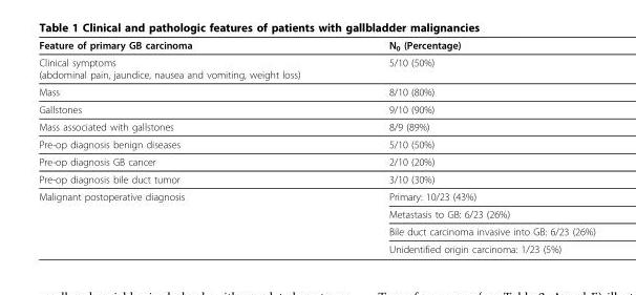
<table><thead><tr><td>Feature of primary GB carcinoma</td><td>N<sub>0</sub> (Percentage)</td></tr></thead><tbody><tr><td>Clinical symptoms (abdominal pain, jaundice, nausea and vomiting, weight loss)</td><td>5/10 (50%)</td></tr><tr><td>Mass</td><td>8/10 (80%)</td></tr><tr><td>Gallstones</td><td>9/10 (90%)</td></tr><tr><td>Mass associated with gallstones</td><td>8/9 (89%)</td></tr><tr><td>Pre-op diagnosis benign diseases</td><td>5/10 (50%)</td></tr><tr><td>Pre-op diagnosis GB cancer</td><td>2/10 (20%)</td></tr><tr><td>Pre-op diagnosis bile duct tumor</td><td>3/10 (30%)</td></tr><tr><td rowspan="4">Malignant postoperative diagnosis</td><td>Primary: 10/23 (43%)</td></tr><tr><td>Metastasis to GB: 6/23 (26%)</td></tr><tr><td>Bile duct carcinoma invasive into GB: 6/23 (26%)</td></tr><tr><td>Unidentified origin carcinoma: 1/23 (5%)</td></tr></tbody></table>